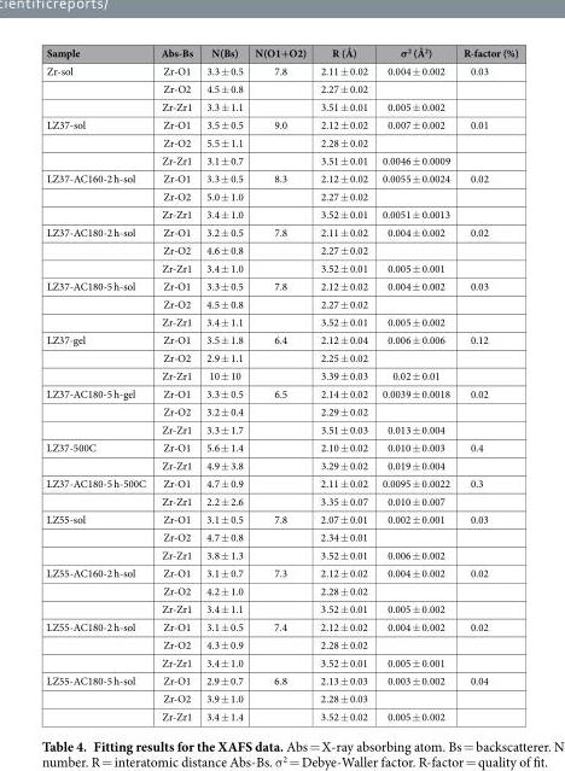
<table><thead><tr><td>Sample</td><td>Abs-Bs</td><td>N(Bs)</td><td>N(O1+O2)</td><td>R (Å)</td><td>σ<sup>2</sup> (Å<sup>2</sup>)</td><td>R-factor (%)</td></tr></thead><tbody><tr><td rowspan="3">Zr-sol</td><td>Zr-O1</td><td>3.3 ± 0.5</td><td>7.8</td><td>2.11 ± 0.02</td><td>0.004 ± 0.002</td><td>0.03</td></tr><tr><td>Zr-O2</td><td>4.5 ± 0.8</td><td></td><td>2.27 ± 0.02</td><td></td><td></td></tr><tr><td>Zr-Zr1</td><td>3.3 ± 1.1</td><td></td><td>3.51 ± 0.01</td><td>0.005 ± 0.002</td><td></td></tr><tr><td rowspan="3">LZ37-sol</td><td>Zr-O1</td><td>3.5 ± 0.5</td><td>9.0</td><td>2.12 ± 0.02</td><td>0.007 ± 0.002</td><td>0.01</td></tr><tr><td>Zr-O2</td><td>5.5 ± 1.1</td><td></td><td>2.28 ± 0.02</td><td></td><td></td></tr><tr><td>Zr-Zr1</td><td>3.1 ± 0.7</td><td></td><td>3.51 ± 0.01</td><td>0.0046 ± 0.0009</td><td></td></tr><tr><td rowspan="3">LZ37-AC160-2 h-sol</td><td>Zr-O1</td><td>3.3 ± 0.5</td><td>8.3</td><td>2.12 ± 0.02</td><td>0.0055 ± 0.0024</td><td>0.02</td></tr><tr><td>Zr-O2</td><td>5.0 ± 1.0</td><td></td><td>2.27 ± 0.02</td><td></td><td></td></tr><tr><td>Zr-Zr1</td><td>3.4 ± 1.0</td><td></td><td>3.52 ± 0.01</td><td>0.0051 ± 0.0013</td><td></td></tr><tr><td rowspan="3">LZ37-AC180-2 h-sol</td><td>Zr-O1</td><td>3.2 ± 0.5</td><td>7.8</td><td>2.11 ± 0.02</td><td>0.004 ± 0.002</td><td>0.02</td></tr><tr><td>Zr-O2</td><td>4.6 ± 0.8</td><td></td><td>2.27 ± 0.02</td><td></td><td></td></tr><tr><td>Zr-Zr1</td><td>3.4 ± 1.0</td><td></td><td>3.52 ± 0.01</td><td>0.005 ± 0.001</td><td></td></tr><tr><td rowspan="3">LZ37-AC180-5 h-sol</td><td>Zr-O1</td><td>3.3 ± 0.5</td><td>7.8</td><td>2.12 ± 0.02</td><td>0.004 ± 0.002</td><td>0.03</td></tr><tr><td>Zr-O2</td><td>4.5 ± 0.8</td><td></td><td>2.27 ± 0.02</td><td></td><td></td></tr><tr><td>Zr-Zr1</td><td>3.4 ± 1.1</td><td></td><td>3.52 ± 0.01</td><td>0.005 ± 0.002</td><td></td></tr><tr><td rowspan="3">LZ37-gel</td><td>Zr-O1</td><td>3.5 ± 1.8</td><td>6.4</td><td>2.12 ± 0.04</td><td>0.006 ± 0.006</td><td>0.12</td></tr><tr><td>Zr-O2</td><td>2.9 ± 1.1</td><td></td><td>2.25 ± 0.02</td><td></td><td></td></tr><tr><td>Zr-Zr1</td><td>10 ± 10</td><td></td><td>3.39 ± 0.03</td><td>0.02 ± 0.01</td><td></td></tr><tr><td rowspan="3">LZ37-AC180-5 h-gel</td><td>Zr-O1</td><td>3.3 ± 0.5</td><td>6.5</td><td>2.14 ± 0.02</td><td>0.0039 ± 0.0018</td><td>0.02</td></tr><tr><td>Zr-O2</td><td>3.2 ± 0.4</td><td></td><td>2.29 ± 0.02</td><td></td><td></td></tr><tr><td>Zr-Zr1</td><td>3.3 ± 1.7</td><td></td><td>3.51 ± 0.03</td><td>0.013 ± 0.004</td><td></td></tr><tr><td rowspan="2">LZ37-500C</td><td>Zr-O1</td><td>5.6 ± 1.4</td><td></td><td>2.10 ± 0.02</td><td>0.010 ± 0.003</td><td>0.4</td></tr><tr><td>Zr-Zr1</td><td>4.9 ± 3.8</td><td></td><td>3.29 ± 0.02</td><td>0.019 ± 0.004</td><td></td></tr><tr><td rowspan="2">LZ37-AC180-5 h-500C</td><td>Zr-O1</td><td>4.7 ± 0.9</td><td></td><td>2.11 ± 0.02</td><td>0.0095 ± 0.0022</td><td>0.3</td></tr><tr><td>Zr-Zr1</td><td>2.2 ± 2.6</td><td></td><td>3.35 ± 0.07</td><td>0.010 ± 0.007</td><td></td></tr><tr><td rowspan="3">LZ55-sol</td><td>Zr-O1</td><td>3.1 ± 0.5</td><td>7.8</td><td>2.07 ± 0.01</td><td>0.002 ± 0.001</td><td>0.03</td></tr><tr><td>Zr-O2</td><td>4.7 ± 0.8</td><td></td><td>2.34 ± 0.01</td><td></td><td></td></tr><tr><td>Zr-Zr1</td><td>3.8 ± 1.3</td><td></td><td>3.52 ± 0.01</td><td>0.006 ± 0.002</td><td></td></tr><tr><td rowspan="3">LZ55-AC160-2 h-sol</td><td>Zr-O1</td><td>3.1 ± 0.7</td><td>7.3</td><td>2.12 ± 0.02</td><td>0.004 ± 0.002</td><td>0.02</td></tr><tr><td>Zr-O2</td><td>4.2 ± 1.0</td><td></td><td>2.28 ± 0.02</td><td></td><td></td></tr><tr><td>Zr-Zr1</td><td>3.4 ± 1.1</td><td></td><td>3.52 ± 0.01</td><td>0.005 ± 0.002</td><td></td></tr><tr><td rowspan="3">LZ55-AC180-2 h-sol</td><td>Zr-O1</td><td>3.1 ± 0.5</td><td>7.4</td><td>2.12 ± 0.02</td><td>0.004 ± 0.002</td><td>0.02</td></tr><tr><td>Zr-O2</td><td>4.3 ± 0.9</td><td></td><td>2.28 ± 0.02</td><td></td><td></td></tr><tr><td>Zr-Zr1</td><td>3.4 ± 1.0</td><td></td><td>3.52 ± 0.01</td><td>0.005 ± 0.001</td><td></td></tr><tr><td rowspan="3">LZ55-AC180-5 h-sol</td><td>Zr-O1</td><td>2.9 ± 0.7</td><td>6.8</td><td>2.13 ± 0.03</td><td>0.003 ± 0.002</td><td>0.04</td></tr><tr><td>Zr-O2</td><td>3.9 ± 1.0</td><td></td><td>2.28 ± 0.03</td><td></td><td></td></tr><tr><td>Zr-Zr1</td><td>3.4 ± 1.4</td><td></td><td>3.52 ± 0.02</td><td>0.005 ± 0.002</td><td></td></tr></tbody></table>